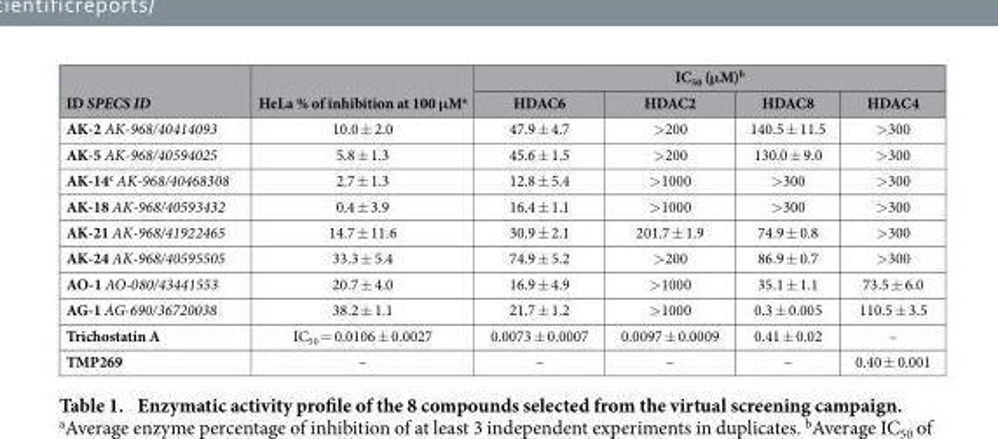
<table><thead><tr><td rowspan="2">ID SPECS ID</td><td rowspan="2">HeLa % of inhibition at 100 μM<sup>a</sup></td><td colspan="4">IC<sub>50</sub> (μM)<sup>b</sup></td></tr><tr><td>HDAC6</td><td>HDAC2</td><td>HDAC8</td><td>HDAC4</td></tr></thead><tbody><tr><td>AK-2 AK-968/40414093</td><td>10.0 ± 2.0</td><td>47.9 ± 4.7</td><td>&gt; 200</td><td>140.5 ± 11.5</td><td>&gt; 300</td></tr><tr><td>AK-5 AK-968/40594025</td><td>5.8 ± 1.3</td><td>45.6 ± 1.5</td><td>&gt; 200</td><td>130.0 ± 9.0</td><td>&gt; 300</td></tr><tr><td>AK-14<sup>c</sup> AK-968/40468308</td><td>2.7 ± 1.3</td><td>12.8 ± 5.4</td><td>&gt; 1000</td><td>&gt; 300</td><td>&gt; 300</td></tr><tr><td>AK-18 AK-968/40593432</td><td>0.4 ± 3.9</td><td>16.4 ± 1.1</td><td>&gt; 1000</td><td>&gt; 300</td><td>&gt; 300</td></tr><tr><td>AK-21 AK-968/41922465</td><td>14.7 ± 11.6</td><td>30.9 ± 2.1</td><td>201.7 ± 1.9</td><td>74.9 ± 0.8</td><td>&gt; 300</td></tr><tr><td>AK-24 AK-968/40595505</td><td>33.3 ± 5.4</td><td>74.9 ± 5.2</td><td>&gt; 200</td><td>86.9 ± 0.7</td><td>&gt; 300</td></tr><tr><td>AO-1 AO-080/43441553</td><td>20.7 ± 4.0</td><td>16.9 ± 4.9</td><td>&gt; 1000</td><td>35.1 ± 1.1</td><td>73.5 ± 6.0</td></tr><tr><td>AG-1 AG-690/36720038</td><td>38.2 ± 1.1</td><td>21.7 ± 1.2</td><td>&gt; 1000</td><td>0.3 ± 0.005</td><td>110.5 ± 3.5</td></tr><tr><td>Trichostatin A</td><td>IC<sub>50</sub> = 0.0106 ± 0.0027</td><td>0.0073 ± 0.0007</td><td>0.0097 ± 0.0009</td><td>0.41 ± 0.02</td><td>–</td></tr><tr><td>TMP269</td><td>–</td><td>–</td><td>–</td><td>–</td><td>0.40 ± 0.001</td></tr></tbody></table>